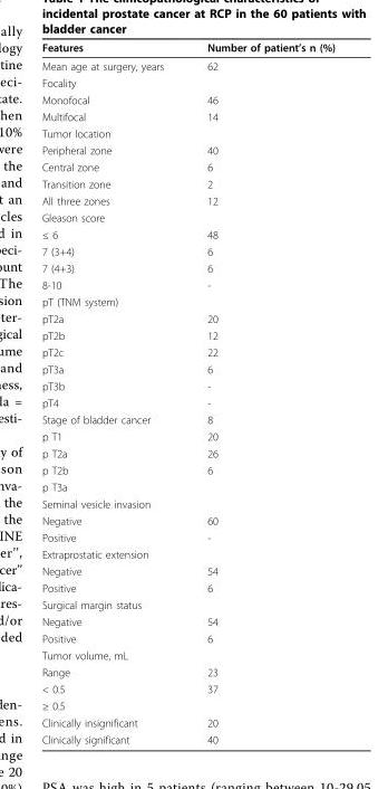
<table><thead><tr><td>Features</td><td>Number of patient’s n (%)</td></tr></thead><tbody><tr><td>Mean age at surgery, years</td><td>62</td></tr><tr><td colspan="2">Focality</td></tr><tr><td>Monofocal</td><td>46</td></tr><tr><td>Multifocal</td><td>14</td></tr><tr><td colspan="2">Tumor location</td></tr><tr><td>Peripheral zone</td><td>40</td></tr><tr><td>Central zone</td><td>6</td></tr><tr><td>Transition zone</td><td>2</td></tr><tr><td>All three zones</td><td>12</td></tr><tr><td colspan="2">Gleason score</td></tr><tr><td>≤ 6</td><td>48</td></tr><tr><td>7 (3+4)</td><td>6</td></tr><tr><td>7 (4+3)</td><td>6</td></tr><tr><td>8-10</td><td>-</td></tr><tr><td colspan="2">pT (TNM system)</td></tr><tr><td>pT2a</td><td>20</td></tr><tr><td>pT2b</td><td>12</td></tr><tr><td>pT2c</td><td>22</td></tr><tr><td>pT3a</td><td>6</td></tr><tr><td>pT3b</td><td>-</td></tr><tr><td>pT4</td><td>-</td></tr><tr><td>Stage of bladder cancer</td><td>8</td></tr><tr><td>p T1</td><td>20</td></tr><tr><td>p T2a</td><td>26</td></tr><tr><td>p T2b</td><td>6</td></tr><tr><td colspan="2">p T3a</td></tr><tr><td colspan="2">Seminal vesicle invasion</td></tr><tr><td>Negative</td><td>60</td></tr><tr><td>Positive</td><td>-</td></tr><tr><td colspan="2">Extraprostatic extension</td></tr><tr><td>Negative</td><td>54</td></tr><tr><td>Positive</td><td>6</td></tr><tr><td colspan="2">Surgical margin status</td></tr><tr><td>Negative</td><td>54</td></tr><tr><td>Positive</td><td>6</td></tr><tr><td colspan="2">Tumor volume, mL</td></tr><tr><td>Range</td><td>23</td></tr><tr><td>&lt; 0.5</td><td>37</td></tr><tr><td colspan="2">≥ 0.5</td></tr><tr><td>Clinically insignificant</td><td>20</td></tr><tr><td>Clinically significant</td><td>40</td></tr></tbody></table>